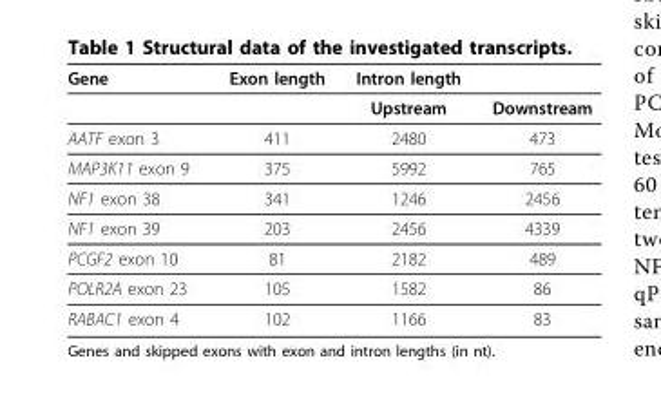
<table><thead><tr><td>Gene</td><td>Exon length</td><td>Intron length</td><td></td></tr></thead><tbody><tr><td></td><td></td><td>Upstream</td><td>Downstream</td></tr><tr><td>AATF exon 3</td><td>411</td><td>2480</td><td>473</td></tr><tr><td>MAP3K11 exon 9</td><td>375</td><td>5992</td><td>765</td></tr><tr><td>NF1 exon 38</td><td>341</td><td>1246</td><td>2456</td></tr><tr><td>NF1 exon 39</td><td>203</td><td>2456</td><td>4339</td></tr><tr><td>PCGF2 exon 10</td><td>81</td><td>2182</td><td>489</td></tr><tr><td>POLR2A exon 23</td><td>105</td><td>1582</td><td>86</td></tr><tr><td>RABAC1 exon 4</td><td>102</td><td>1166</td><td>83</td></tr></tbody></table>